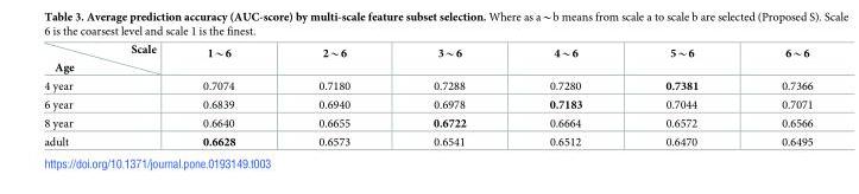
<table><thead><tr><td>Age Scale</td><td>1*6</td><td>2*6</td><td>3*6</td><td>4*6</td><td>5*6</td><td>6*6</td></tr></thead><tbody><tr><td>4 year</td><td>0.7074</td><td>0.7180</td><td>0.7288</td><td>0.7280</td><td>0.7381</td><td>0.7366</td></tr><tr><td>6 year</td><td>0.6839</td><td>0.6940</td><td>0.6978</td><td>0.7183</td><td>0.7044</td><td>0.7071</td></tr><tr><td>8 year</td><td>0.6640</td><td>0.6655</td><td>0.6722</td><td>0.6664</td><td>0.6572</td><td>0.6566</td></tr><tr><td>adult</td><td>0.6628</td><td>0.6573</td><td>0.6541</td><td>0.6512</td><td>0.6470</td><td>0.6495</td></tr></tbody></table>